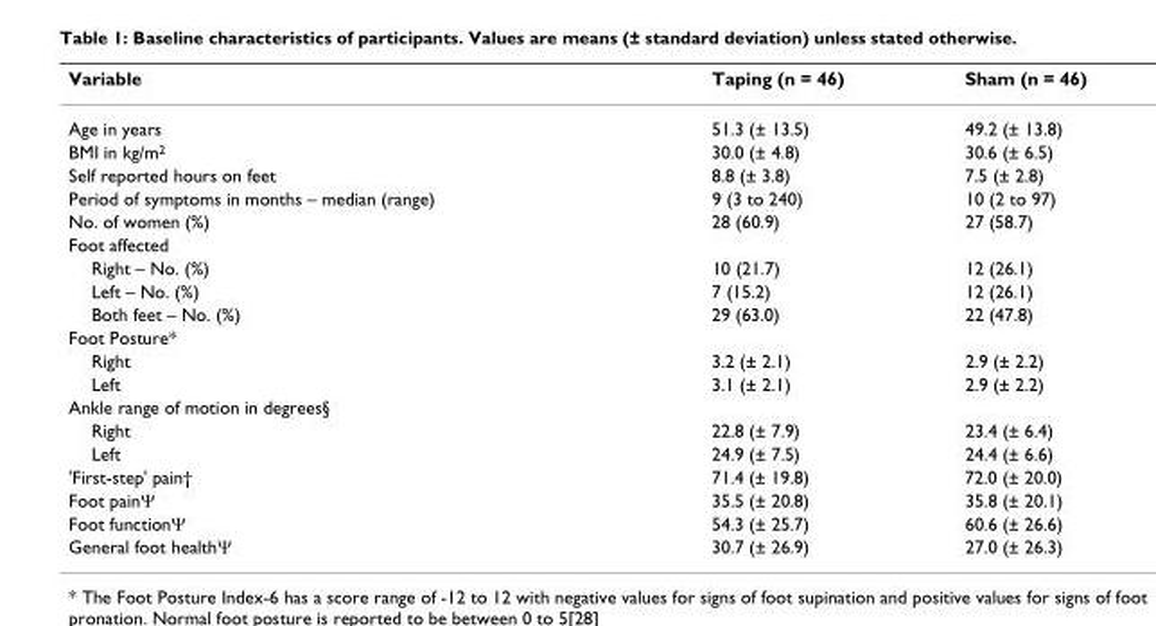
<table><thead><tr><td>Variable</td><td>Taping (n = 46)</td><td>Sham (n = 46)</td></tr></thead><tbody><tr><td>Age in years</td><td>51.3 (± 13.5)</td><td>49.2 (± 13.8)</td></tr><tr><td>BMI in kg/m2</td><td>30.0 (± 4.8)</td><td>30.6 (± 6.5)</td></tr><tr><td>Self reported hours on feet</td><td>8.8 (± 3.8)</td><td>7.5 (± 2.8)</td></tr><tr><td>Period of symptoms in months – median (range)</td><td>9 (3 to 240)</td><td>10 (2 to 97)</td></tr><tr><td>No. of women (%)</td><td>28 (60.9)</td><td>27 (58.7)</td></tr><tr><td colspan="3">Foot affected</td></tr><tr><td>Right – No. (%)</td><td>10 (21.7)</td><td>12 (26.1)</td></tr><tr><td>Left – No. (%)</td><td>7 (15.2)</td><td>12 (26.1)</td></tr><tr><td>Both feet – No. (%)</td><td>29 (63.0)</td><td>22 (47.8)</td></tr><tr><td colspan="3">Foot Posture*</td></tr><tr><td>Right</td><td>3.2 (± 2.1)</td><td>2.9 (± 2.2)</td></tr><tr><td>Left</td><td>3.1 (± 2.1)</td><td>2.9 (± 2.2)</td></tr><tr><td colspan="3">Ankle range of motion in degrees§</td></tr><tr><td>Right</td><td>22.8 (± 7.9)</td><td>23.4 (± 6.4)</td></tr><tr><td>Left</td><td>24.9 (± 7.5)</td><td>24.4 (± 6.6)</td></tr><tr><td>&#x27;First-step&#x27; pain†</td><td>71.4 (± 19.8)</td><td>72.0 (± 20.0)</td></tr><tr><td>Foot painΨ</td><td>35.5 (± 20.8)</td><td>35.8 (± 20.1)</td></tr><tr><td>Foot functionΨ</td><td>54.3 (± 25.7)</td><td>60.6 (± 26.6)</td></tr><tr><td>General foot healthΨ</td><td>30.7 (± 26.9)</td><td>27.0 (± 26.3)</td></tr></tbody></table>